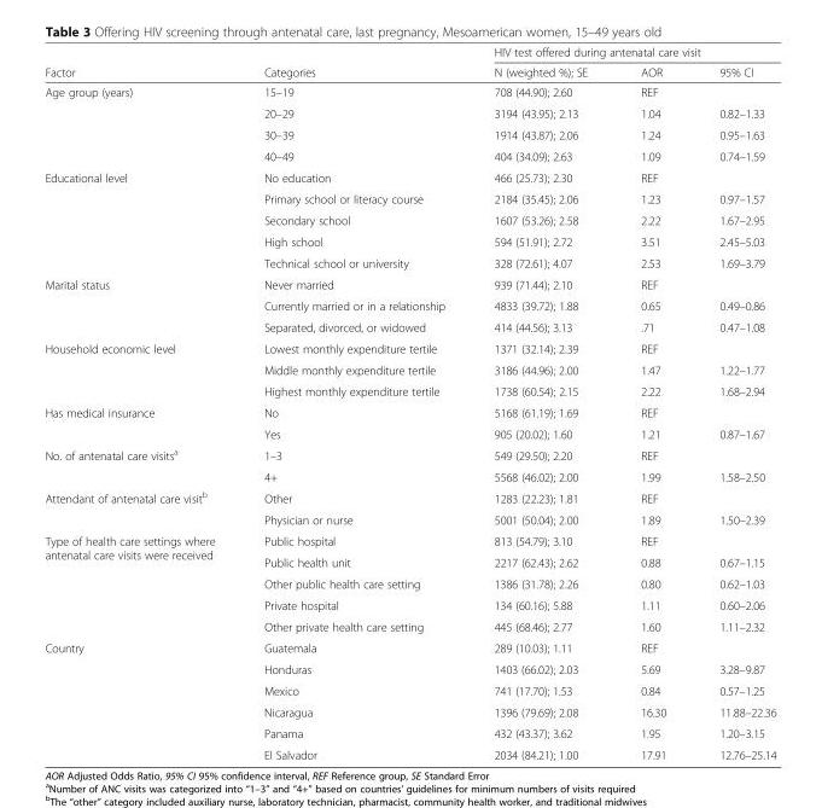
<table><thead><tr><td rowspan="2">Factor</td><td rowspan="2">Categories</td><td colspan="3">HIV test offered during antenatal care visit</td></tr><tr><td>N (weighted %); SE</td><td>AOR</td><td>95% CI</td></tr></thead><tbody><tr><td rowspan="4">Age group (years)</td><td>15–19</td><td>708 (44.90); 2.60</td><td>REF</td><td></td></tr><tr><td>20–29</td><td>3194 (43.95); 2.13</td><td>1.04</td><td>0.82–1.33</td></tr><tr><td>30–39</td><td>1914 (43.87); 2.06</td><td>1.24</td><td>0.95–1.63</td></tr><tr><td>40–49</td><td>404 (34.09); 2.63</td><td>1.09</td><td>0.74–1.59</td></tr><tr><td rowspan="5">Educational level</td><td>No education</td><td>466 (25.73); 2.30</td><td>REF</td><td></td></tr><tr><td>Primary school or literacy course</td><td>2184 (35.45); 2.06</td><td>1.23</td><td>0.97–1.57</td></tr><tr><td>Secondary school</td><td>1607 (53.26); 2.58</td><td>2.22</td><td>1.67–2.95</td></tr><tr><td>High school</td><td>594 (51.91); 2.72</td><td>3.51</td><td>2.45–5.03</td></tr><tr><td>Technical school or university</td><td>328 (72.61); 4.07</td><td>2.53</td><td>1.69–3.79</td></tr><tr><td rowspan="3">Marital status</td><td>Never married</td><td>939 (71.44); 2.10</td><td>REF</td><td></td></tr><tr><td>Currently married or in a relationship</td><td>4833 (39.72); 1.88</td><td>0.65</td><td>0.49–0.86</td></tr><tr><td>Separated, divorced, or widowed</td><td>414 (44.56); 3.13</td><td>.71</td><td>0.47–1.08</td></tr><tr><td rowspan="3">Household economic level</td><td>Lowest monthly expenditure tertile</td><td>1371 (32.14); 2.39</td><td>REF</td><td></td></tr><tr><td>Middle monthly expenditure tertile</td><td>3186 (44.96); 2.00</td><td>1.47</td><td>1.22–1.77</td></tr><tr><td>Highest monthly expenditure tertile</td><td>1738 (60.54); 2.15</td><td>2.22</td><td>1.68–2.94</td></tr><tr><td rowspan="2">Has medical insurance</td><td>No</td><td>5168 (61.19); 1.69</td><td>REF</td><td></td></tr><tr><td>Yes</td><td>905 (20.02); 1.60</td><td>1.21</td><td>0.87–1.67</td></tr><tr><td rowspan="2">No. of antenatal care visits<sup>a</sup></td><td>1–3</td><td>549 (29.50); 2.20</td><td>REF</td><td></td></tr><tr><td>4+</td><td>5568 (46.02); 2.00</td><td>1.99</td><td>1.58–2.50</td></tr><tr><td rowspan="2">Attendant of antenatal care visit<sup>b</sup></td><td>Other</td><td>1283 (22.23); 1.81</td><td>REF</td><td></td></tr><tr><td>Physician or nurse</td><td>5001 (50.04); 2.00</td><td>1.89</td><td>1.50–2.39</td></tr><tr><td rowspan="5">Type of health care settings where antenatal care visits were received</td><td>Public hospital</td><td>813 (54.79); 3.10</td><td>REF</td><td></td></tr><tr><td>Public health unit</td><td>2217 (62.43); 2.62</td><td>0.88</td><td>0.67–1.15</td></tr><tr><td>Other public health care setting</td><td>1386 (31.78); 2.26</td><td>0.80</td><td>0.62–1.03</td></tr><tr><td>Private hospital</td><td>134 (60.16); 5.88</td><td>1.11</td><td>0.60–2.06</td></tr><tr><td>Other private health care setting</td><td>445 (68.46); 2.77</td><td>1.60</td><td>1.11–2.32</td></tr><tr><td rowspan="6">Country</td><td>Guatemala</td><td>289 (10.03); 1.11</td><td>REF</td><td></td></tr><tr><td>Honduras</td><td>1403 (66.02); 2.03</td><td>5.69</td><td>3.28–9.87</td></tr><tr><td>Mexico</td><td>741 (17.70); 1.53</td><td>0.84</td><td>0.57–1.25</td></tr><tr><td>Nicaragua</td><td>1396 (79.69); 2.08</td><td>16.30</td><td>11.88–22.36</td></tr><tr><td>Panama</td><td>432 (43.37); 3.62</td><td>1.95</td><td>1.20–3.15</td></tr><tr><td>El Salvador</td><td>2034 (84.21); 1.00</td><td>17.91</td><td>12.76–25.14</td></tr></tbody></table>